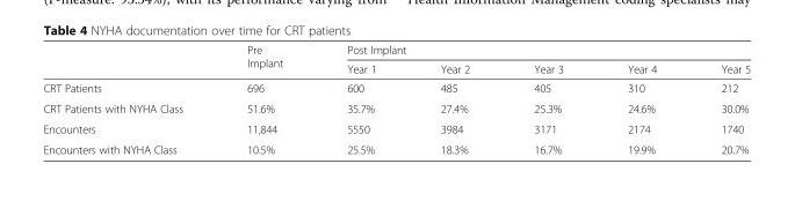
<table><thead><tr><td rowspan="2"></td><td rowspan="2">Pre Implant</td><td colspan="5">Post Implant</td></tr><tr><td>Year 1</td><td>Year 2</td><td>Year 3</td><td>Year 4</td><td>Year 5</td></tr></thead><tbody><tr><td>CRT Patients</td><td>696</td><td>600</td><td>485</td><td>405</td><td>310</td><td>212</td></tr><tr><td>CRT Patients with NYHA Class</td><td>51.6%</td><td>35.7%</td><td>27.4%</td><td>25.3%</td><td>24.6%</td><td>30.0%</td></tr><tr><td>Encounters</td><td>11,844</td><td>5550</td><td>3984</td><td>3171</td><td>2174</td><td>1740</td></tr><tr><td>Encounters with NYHA Class</td><td>10.5%</td><td>25.5%</td><td>18.3%</td><td>16.7%</td><td>19.9%</td><td>20.7%</td></tr></tbody></table>